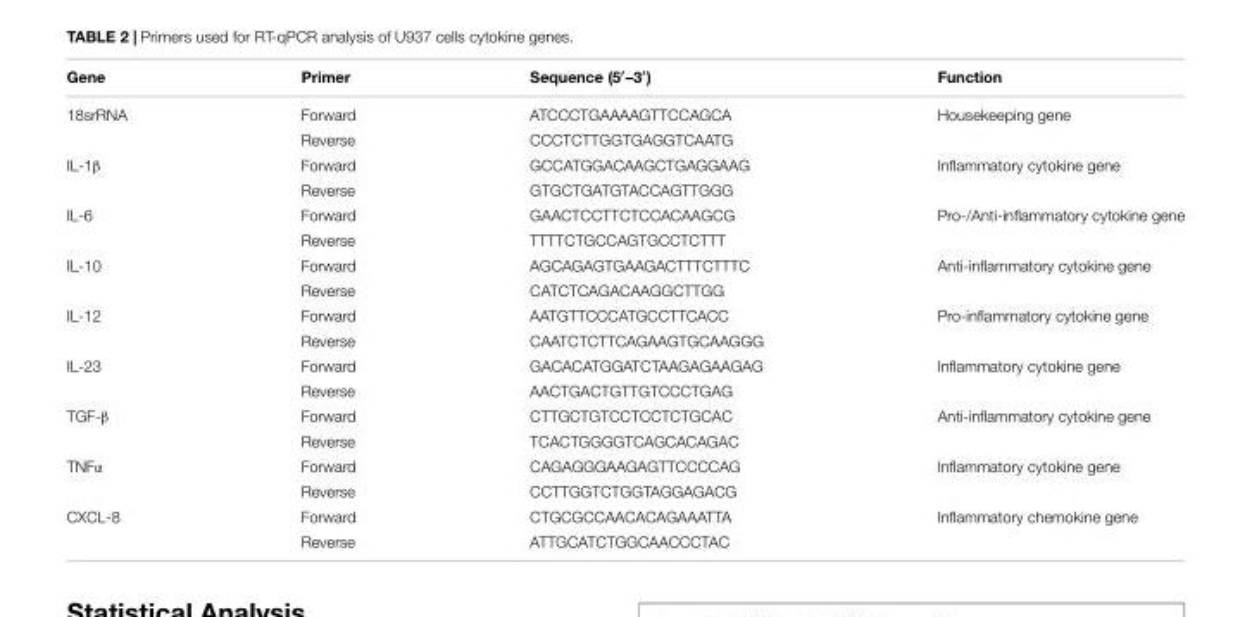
<table><thead><tr><td>Gene</td><td>Primer</td><td>Sequence (5′–3′)</td><td>Function</td></tr></thead><tbody><tr><td rowspan="2">18srRNA</td><td>Forward</td><td>ATCCCTGAAAAGTTCCAGCA</td><td>Housekeeping gene</td></tr><tr><td>Reverse</td><td>CCCTCTTGGTGAGGTCAATG</td><td></td></tr><tr><td rowspan="2">IL-1β</td><td>Forward</td><td>GCCATGGACAAGCTGAGGAAG</td><td>Inflammatory cytokine gene</td></tr><tr><td>Reverse</td><td>GTGCTGATGTACCAGTTGGG</td><td></td></tr><tr><td rowspan="2">IL-6</td><td>Forward</td><td>GAACTCCTTCTCCACAAGCG</td><td>Pro-/Anti-inflammatory cytokine gene</td></tr><tr><td>Reverse</td><td>TTTTCTGCCAGTGCCTCTTT</td><td></td></tr><tr><td rowspan="2">IL-10</td><td>Forward</td><td>AGCAGAGTGAAGACTTTCTTTC</td><td>Anti-inflammatory cytokine gene</td></tr><tr><td>Reverse</td><td>CATCTCAGACAAGGCTTGG</td><td></td></tr><tr><td rowspan="2">IL-12</td><td>Forward</td><td>AATGTTCCCATGCCTTCACC</td><td>Pro-inflammatory cytokine gene</td></tr><tr><td>Reverse</td><td>CAATCTCTTCAGAAGTGCAAGGG</td><td></td></tr><tr><td rowspan="2">IL-23</td><td>Forward</td><td>GACACATGGATCTAAGAGAAGAG</td><td>Inflammatory cytokine gene</td></tr><tr><td>Reverse</td><td>AACTGACTGTTGTCCCTGAG</td><td></td></tr><tr><td rowspan="2">TGF-β</td><td>Forward</td><td>CTTGCTGTCCTCCTCTGCAC</td><td>Anti-inflammatory cytokine gene</td></tr><tr><td>Reverse</td><td>TCACTGGGGTCAGCACAGAC</td><td></td></tr><tr><td rowspan="2">TNFα</td><td>Forward</td><td>CAGAGGGAAGAGTTCCCCAG</td><td>Inflammatory cytokine gene</td></tr><tr><td>Reverse</td><td>CCTTGGTCTGGTAGGAGACG</td><td></td></tr><tr><td rowspan="2">CXCL-8</td><td>Forward</td><td>CTGCGCCAACACAGAAATTA</td><td>Inflammatory chemokine gene</td></tr><tr><td>Reverse</td><td>ATTGCATCTGGCAACCCTAC</td><td></td></tr></tbody></table>